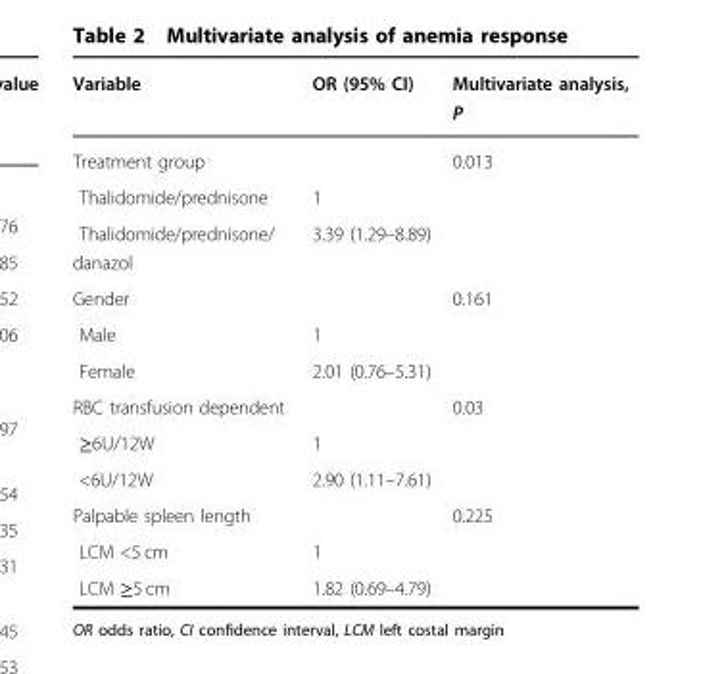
<table><thead><tr><td>Variable</td><td>OR (95% CI)</td><td>Multivariate analysis, P</td></tr></thead><tbody><tr><td>Treatment group</td><td></td><td>0.013</td></tr><tr><td>Thalidomide/prednisone</td><td>1</td><td></td></tr><tr><td>Thalidomide/prednisone/ danazol</td><td>3.39 (1.29–8.89)</td><td></td></tr><tr><td>Gender</td><td></td><td>0.161</td></tr><tr><td>Male</td><td>1</td><td></td></tr><tr><td>Female</td><td>2.01 (0.76–5.31)</td><td></td></tr><tr><td>RBC transfusion dependent</td><td></td><td>0.03</td></tr><tr><td>≥6U/12W</td><td>1</td><td></td></tr><tr><td>&lt;6U/12W</td><td>2.90 (1.11–7.61)</td><td></td></tr><tr><td>Palpable spleen length</td><td></td><td>0.225</td></tr><tr><td>LCM &lt;5 cm</td><td>1</td><td></td></tr><tr><td>LCM ≥5 cm</td><td>1.82 (0.69–4.79)</td><td></td></tr></tbody></table>